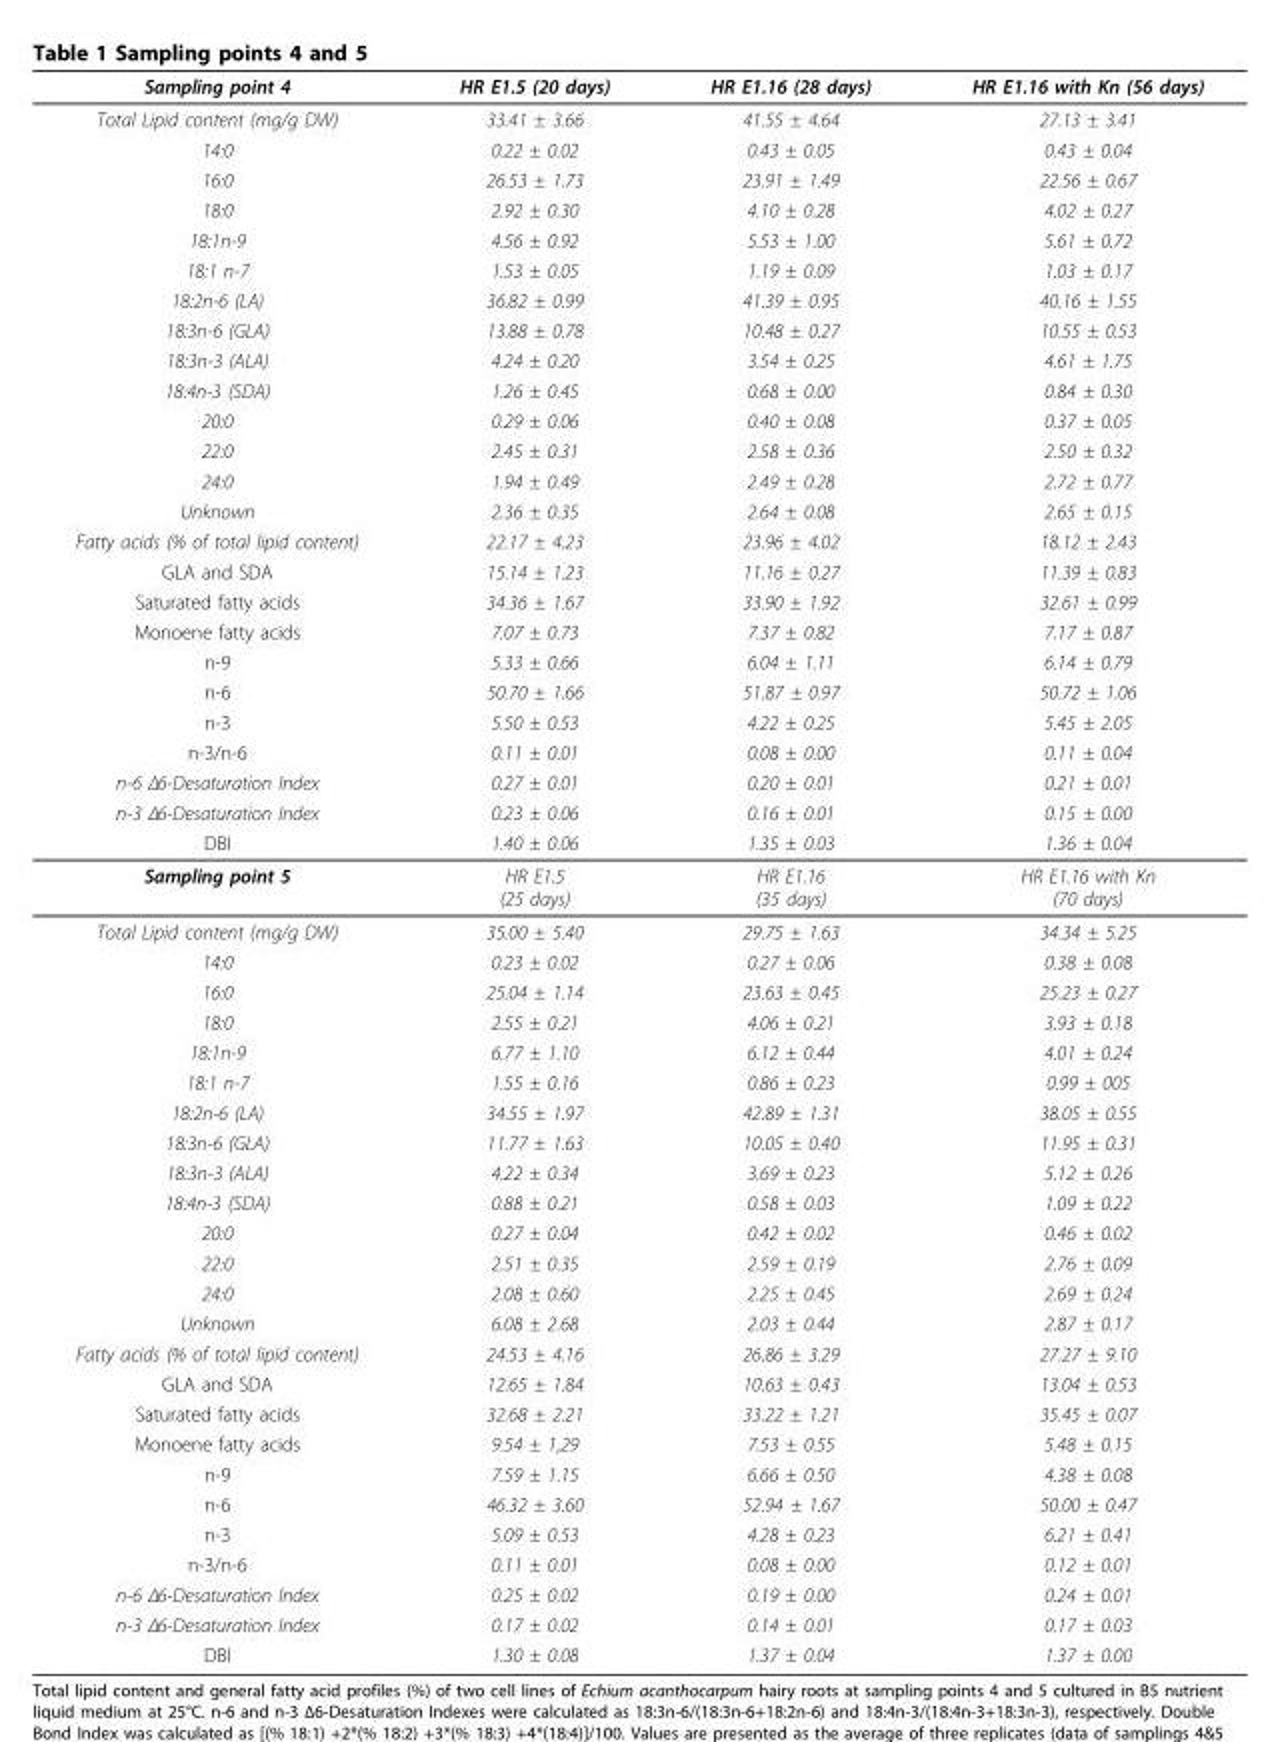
<table><thead><tr><td>Sampling point 4</td><td>HR E1.5 (20 days)</td><td>HR E1.16 (28 days)</td><td>HR E1.16 with Kn (56 days)</td></tr></thead><tbody><tr><td>Total Lipid content (mg/g DW)</td><td>33.41 ± 3.66</td><td>41.55 ± 4.64</td><td>27.13 ± 3.41</td></tr><tr><td>14:0</td><td>0.22 ± 0.02</td><td>0.43 ± 0.05</td><td>0.43 ± 0.04</td></tr><tr><td>16:0</td><td>26.53 ± 1.73</td><td>23.91 ± 1.49</td><td>22.56 ± 0.67</td></tr><tr><td>18:0</td><td>2.92 ± 0.30</td><td>4.10 ± 0.28</td><td>4.02 ± 0.27</td></tr><tr><td>18:1n-9</td><td>4.56 ± 0.92</td><td>5.53 ± 1.00</td><td>5.61 ± 0.72</td></tr><tr><td>18:1 n-7</td><td>1.53 ± 0.05</td><td>1.19 ± 0.09</td><td>1.03 ± 0.17</td></tr><tr><td>18:2n-6 (LA)</td><td>36.82 ± 0.99</td><td>41.39 ± 0.95</td><td>40.16 ± 1.55</td></tr><tr><td>18:3n-6 (GLA)</td><td>13.88 ± 0.78</td><td>10.48 ± 0.27</td><td>10.55 ± 0.53</td></tr><tr><td>18:3n-3 (ALA)</td><td>4.24 ± 0.20</td><td>3.54 ± 0.25</td><td>4.61 ± 1.75</td></tr><tr><td>18:4n-3 (SDA)</td><td>1.26 ± 0.45</td><td>0.68 ± 0.00</td><td>0.84 ± 0.30</td></tr><tr><td>20:0</td><td>0.29 ± 0.06</td><td>0.40 ± 0.08</td><td>0.37 ± 0.05</td></tr><tr><td>22:0</td><td>2.45 ± 0.31</td><td>2.58 ± 0.36</td><td>2.50 ± 0.32</td></tr><tr><td>24:0</td><td>1.94 ± 0.49</td><td>2.49 ± 0.28</td><td>2.72 ± 0.77</td></tr><tr><td>Unknown</td><td>2.36 ± 0.35</td><td>2.64 ± 0.08</td><td>2.65 ± 0.15</td></tr><tr><td>Fatty acids (% of total lipid content)</td><td>22.17 ± 4.23</td><td>23.96 ± 4.02</td><td>18.12 ± 2.43</td></tr><tr><td>GLA and SDA</td><td>15.14 ± 1.23</td><td>11.16 ± 0.27</td><td>11.39 ± 0.83</td></tr><tr><td>Saturated fatty acids</td><td>34.36 ± 1.67</td><td>33.90 ± 1.92</td><td>32.61 ± 0.99</td></tr><tr><td>Monoene fatty acids</td><td>7.07 ± 0.73</td><td>7.37 ± 0.82</td><td>7.17 ± 0.87</td></tr><tr><td>n-9</td><td>5.33 ± 0.66</td><td>6.04 ± 1.11</td><td>6.14 ± 0.79</td></tr><tr><td>n-6</td><td>50.70 ± 1.66</td><td>51.87 ± 0.97</td><td>50.72 ± 1.06</td></tr><tr><td>n-3</td><td>5.50 ± 0.53</td><td>4.22 ± 0.25</td><td>5.45 ± 2.05</td></tr><tr><td>n-3/n-6</td><td>0.11 ± 0.01</td><td>0.08 ± 0.00</td><td>0.11 ± 0.04</td></tr><tr><td>n-6 Δ6-Desaturation Index</td><td>0.27 ± 0.01</td><td>0.20 ± 0.01</td><td>0.21 ± 0.01</td></tr><tr><td>n-3 Δ6-Desaturation Index</td><td>0.23 ± 0.06</td><td>0.16 ± 0.01</td><td>0.15 ± 0.00</td></tr><tr><td>DBI</td><td>1.40 ± 0.06</td><td>1.35 ± 0.03</td><td>1.36 ± 0.04</td></tr><tr><td>Sampling point 5</td><td>HR E1.5 (25 days)</td><td>HR E1.16 (35 days)</td><td>HR E1.16 with Kn (70 days)</td></tr><tr><td>Total Lipid content (mg/g DW)</td><td>35.00 ± 5.40</td><td>29.75 ± 1.63</td><td>34.34 ± 5.25</td></tr><tr><td>14:0</td><td>0.23 ± 0.02</td><td>0.27 ± 0.06</td><td>0.38 ± 0.08</td></tr><tr><td>16:0</td><td>25.04 ± 1.14</td><td>23.63 ± 0.45</td><td>25.23 ± 0.27</td></tr><tr><td>18:0</td><td>2.55 ± 0.21</td><td>4.06 ± 0.21</td><td>3.93 ± 0.18</td></tr><tr><td>18:1n-9</td><td>6.77 ± 1.10</td><td>6.12 ± 0.44</td><td>4.01 ± 0.24</td></tr><tr><td>18:1 n-7</td><td>1.55 ± 0.16</td><td>0.86 ± 0.23</td><td>0.99 ± 005</td></tr><tr><td>18:2n-6 (LA)</td><td>34.55 ± 1.97</td><td>42.89 ± 1.31</td><td>38.05 ± 0.55</td></tr><tr><td>18:3n-6 (GLA)</td><td>11.77 ± 1.63</td><td>10.05 ± 0.40</td><td>11.95 ± 0.31</td></tr><tr><td>18:3n-3 (ALA)</td><td>4.22 ± 0.34</td><td>3.69 ± 0.23</td><td>5.12 ± 0.26</td></tr><tr><td>18:4n-3 (SDA)</td><td>0.88 ± 0.21</td><td>0.58 ± 0.03</td><td>1.09 ± 0.22</td></tr><tr><td>20:0</td><td>0.27 ± 0.04</td><td>0.42 ± 0.02</td><td>0.46 ± 0.02</td></tr><tr><td>22:0</td><td>2.51 ± 0.35</td><td>2.59 ± 0.19</td><td>2.76 ± 0.09</td></tr><tr><td>24:0</td><td>2.08 ± 0.60</td><td>2.25 ± 0.45</td><td>2.69 ± 0.24</td></tr><tr><td>Unknown</td><td>6.08 ± 2.68</td><td>2.03 ± 0.44</td><td>2.87 ± 0.17</td></tr><tr><td>Fatty acids (% of total lipid content)</td><td>24.53 ± 4.16</td><td>26.86 ± 3.29</td><td>27.27 ± 9.10</td></tr><tr><td>GLA and SDA</td><td>12.65 ± 1.84</td><td>10.63 ± 0.43</td><td>13.04 ± 0.53</td></tr><tr><td>Saturated fatty acids</td><td>32.68 ± 2.21</td><td>33.22 ± 1.21</td><td>35.45 ± 0.07</td></tr><tr><td>Monoene fatty acids</td><td>9.54 ± 1,29</td><td>7.53 ± 0.55</td><td>5.48 ± 0.15</td></tr><tr><td>n-9</td><td>7.59 ± 1.15</td><td>6.66 ± 0.50</td><td>4.38 ± 0.08</td></tr><tr><td>n-6</td><td>46.32 ± 3.60</td><td>52.94 ± 1.67</td><td>50.00 ± 0.47</td></tr><tr><td>n-3</td><td>5.09 ± 0.53</td><td>4.28 ± 0.23</td><td>6.21 ± 0.41</td></tr><tr><td>n-3/n-6</td><td>0.11 ± 0.01</td><td>0.08 ± 0.00</td><td>0.12 ± 0.01</td></tr><tr><td>n-6 Δ6-Desaturation Index</td><td>0.25 ± 0.02</td><td>0.19 ± 0.00</td><td>0.24 ± 0.01</td></tr><tr><td>n-3 Δ6-Desaturation Index</td><td>0.17 ± 0.02</td><td>0.14 ± 0.01</td><td>0.17 ± 0.03</td></tr><tr><td>DBI</td><td>1.30 ± 0.08</td><td>1.37 ± 0.04</td><td>1.37 ± 0.00</td></tr></tbody></table>